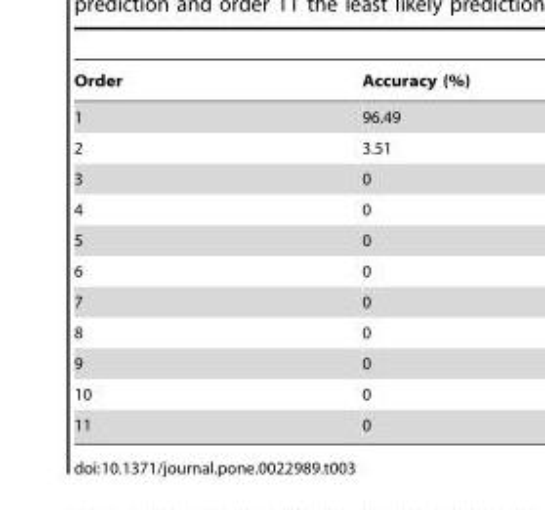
<table><thead><tr><td>Order</td><td>Accuracy (%)</td></tr></thead><tbody><tr><td>1</td><td>96.49</td></tr><tr><td>2</td><td>3.51</td></tr><tr><td>3</td><td>0</td></tr><tr><td>4</td><td>0</td></tr><tr><td>5</td><td>0</td></tr><tr><td>6</td><td>0</td></tr><tr><td>7</td><td>0</td></tr><tr><td>8</td><td>0</td></tr><tr><td>9</td><td>0</td></tr><tr><td>10</td><td>0</td></tr><tr><td>11</td><td>0</td></tr></tbody></table>